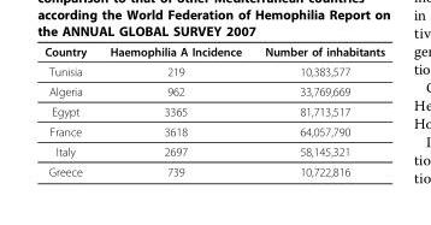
<table><thead><tr><td>Country</td><td>Haemophilia A Incidence</td><td>Number of inhabitants</td></tr></thead><tbody><tr><td>Tunisia</td><td>219</td><td>10,383,577</td></tr><tr><td>Algeria</td><td>962</td><td>33,769,669</td></tr><tr><td>Egypt</td><td>3365</td><td>81,713,517</td></tr><tr><td>France</td><td>3618</td><td>64,057,790</td></tr><tr><td>Italy</td><td>2697</td><td>58,145,321</td></tr><tr><td>Greece</td><td>739</td><td>10,722,816</td></tr></tbody></table>